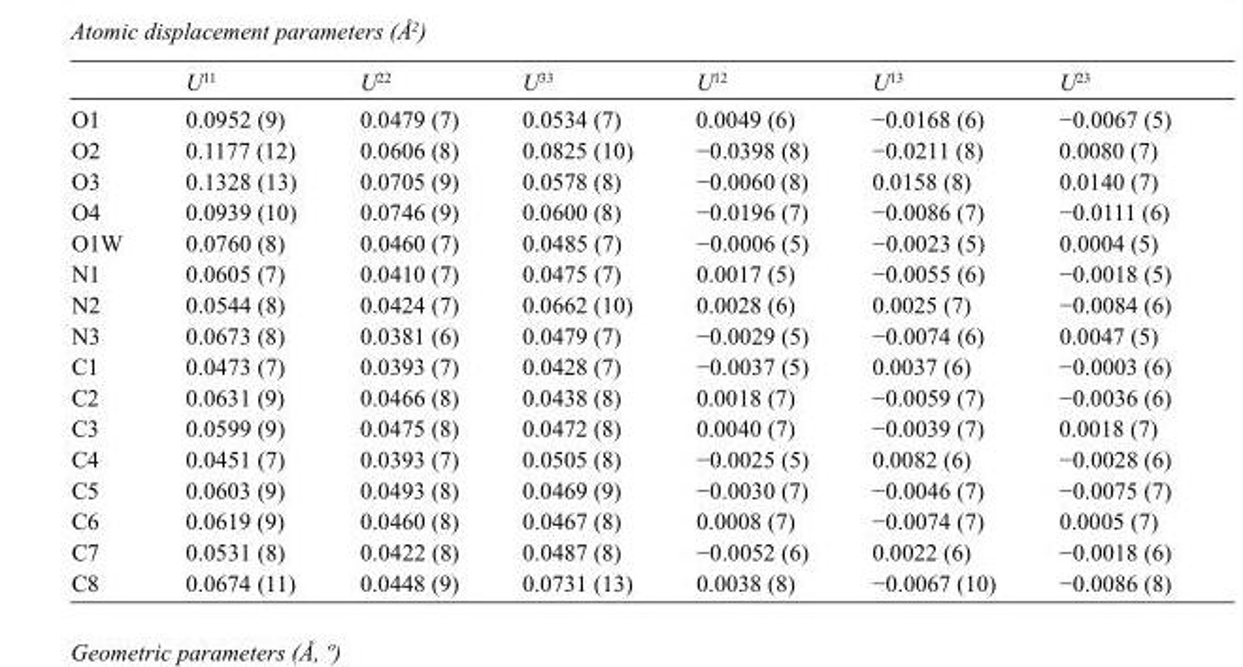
<table><thead><tr><td></td><td>U<sup>11</sup></td><td>U<sup>22</sup></td><td>U<sup>33</sup></td><td>U<sup>12</sup></td><td>U<sup>13</sup></td><td>U<sup>23</sup></td></tr></thead><tbody><tr><td>O1</td><td>0.0952 (9)</td><td>0.0479 (7)</td><td>0.0534 (7)</td><td>0.0049 (6)</td><td>−0.0168 (6)</td><td>−0.0067 (5)</td></tr><tr><td>O2</td><td>0.1177 (12)</td><td>0.0606 (8)</td><td>0.0825 (10)</td><td>−0.0398 (8)</td><td>−0.0211 (8)</td><td>0.0080 (7)</td></tr><tr><td>O3</td><td>0.1328 (13)</td><td>0.0705 (9)</td><td>0.0578 (8)</td><td>−0.0060 (8)</td><td>0.0158 (8)</td><td>0.0140 (7)</td></tr><tr><td>O4</td><td>0.0939 (10)</td><td>0.0746 (9)</td><td>0.0600 (8)</td><td>−0.0196 (7)</td><td>−0.0086 (7)</td><td>−0.0111 (6)</td></tr><tr><td>O1W</td><td>0.0760 (8)</td><td>0.0460 (7)</td><td>0.0485 (7)</td><td>−0.0006 (5)</td><td>−0.0023 (5)</td><td>0.0004 (5)</td></tr><tr><td>N1</td><td>0.0605 (7)</td><td>0.0410 (7)</td><td>0.0475 (7)</td><td>0.0017 (5)</td><td>−0.0055 (6)</td><td>−0.0018 (5)</td></tr><tr><td>N2</td><td>0.0544 (8)</td><td>0.0424 (7)</td><td>0.0662 (10)</td><td>0.0028 (6)</td><td>0.0025 (7)</td><td>−0.0084 (6)</td></tr><tr><td>N3</td><td>0.0673 (8)</td><td>0.0381 (6)</td><td>0.0479 (7)</td><td>−0.0029 (5)</td><td>−0.0074 (6)</td><td>0.0047 (5)</td></tr><tr><td>C1</td><td>0.0473 (7)</td><td>0.0393 (7)</td><td>0.0428 (7)</td><td>−0.0037 (5)</td><td>0.0037 (6)</td><td>−0.0003 (6)</td></tr><tr><td>C2</td><td>0.0631 (9)</td><td>0.0466 (8)</td><td>0.0438 (8)</td><td>0.0018 (7)</td><td>−0.0059 (7)</td><td>−0.0036 (6)</td></tr><tr><td>C3</td><td>0.0599 (9)</td><td>0.0475 (8)</td><td>0.0472 (8)</td><td>0.0040 (7)</td><td>−0.0039 (7)</td><td>0.0018 (7)</td></tr><tr><td>C4</td><td>0.0451 (7)</td><td>0.0393 (7)</td><td>0.0505 (8)</td><td>−0.0025 (5)</td><td>0.0082 (6)</td><td>−0.0028 (6)</td></tr><tr><td>C5</td><td>0.0603 (9)</td><td>0.0493 (8)</td><td>0.0469 (9)</td><td>−0.0030 (7)</td><td>−0.0046 (7)</td><td>−0.0075 (7)</td></tr><tr><td>C6</td><td>0.0619 (9)</td><td>0.0460 (8)</td><td>0.0467 (8)</td><td>0.0008 (7)</td><td>−0.0074 (7)</td><td>0.0005 (7)</td></tr><tr><td>C7</td><td>0.0531 (8)</td><td>0.0422 (8)</td><td>0.0487 (8)</td><td>−0.0052 (6)</td><td>0.0022 (6)</td><td>−0.0018 (6)</td></tr><tr><td>C8</td><td>0.0674 (11)</td><td>0.0448 (9)</td><td>0.0731 (13)</td><td>0.0038 (8)</td><td>−0.0067 (10)</td><td>−0.0086 (8)</td></tr></tbody></table>